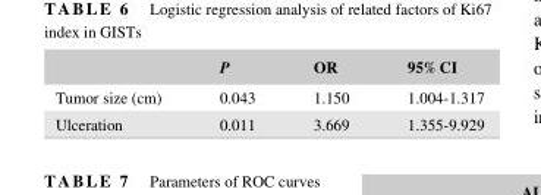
<table><thead><tr><td></td><td>P</td><td>OR</td><td>95% CI</td></tr></thead><tbody><tr><td>Tumor size (cm)</td><td>0.043</td><td>1.150</td><td>1.004- 1.317</td></tr><tr><td>Ulceration</td><td>0.011</td><td>3.669</td><td>1.355- 9.929</td></tr></tbody></table>